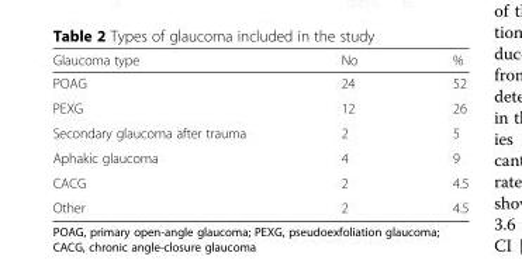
<table><thead><tr><td>Glaucoma type</td><td>No</td><td>%</td></tr></thead><tbody><tr><td>POAG</td><td>24</td><td>52</td></tr><tr><td>PEXG</td><td>12</td><td>26</td></tr><tr><td>Secondary glaucoma after trauma</td><td>2</td><td>5</td></tr><tr><td>Aphakic glaucoma</td><td>4</td><td>9</td></tr><tr><td>CACG</td><td>2</td><td>4.5</td></tr><tr><td>Other</td><td>2</td><td>4.5</td></tr></tbody></table>